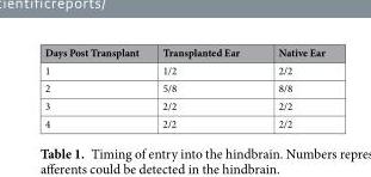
<table><thead><tr><td>Days Post Transplant</td><td>Transplanted Ear</td><td>Native Ear</td></tr></thead><tbody><tr><td>1</td><td>1/2</td><td>2/2</td></tr><tr><td>2</td><td>5/8</td><td>8/8</td></tr><tr><td>3</td><td>2/2</td><td>2/2</td></tr><tr><td>4</td><td>2/2</td><td>2/2</td></tr></tbody></table>